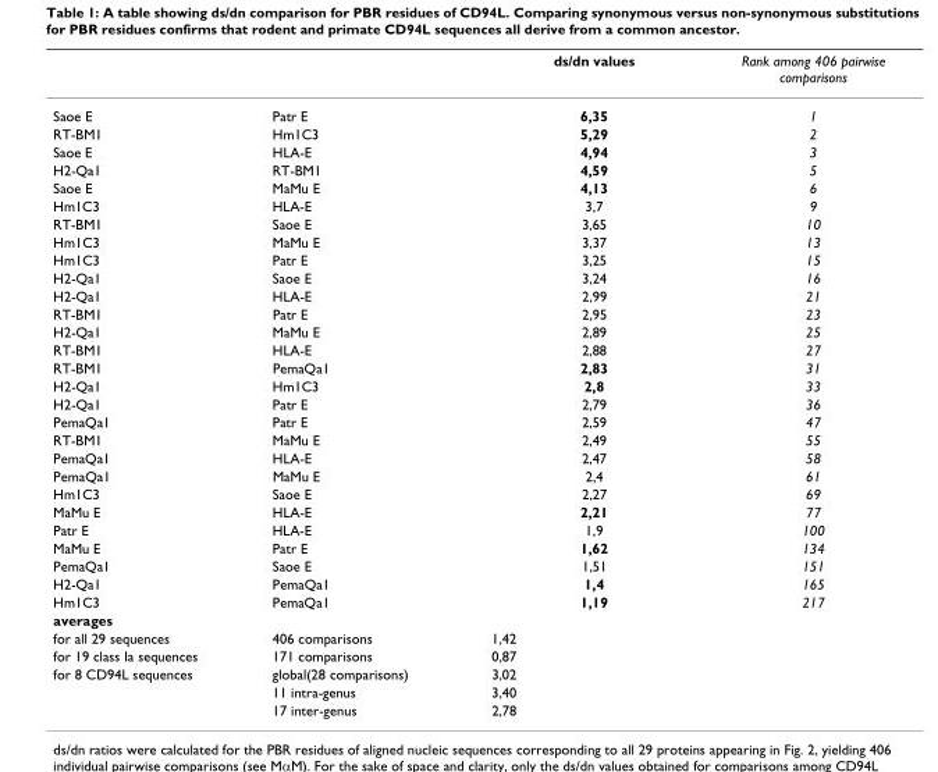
<table><thead><tr><td></td><td></td><td>ds/dn values</td><td>Rank among 406 pairwise comparisons</td></tr></thead><tbody><tr><td>Saoe E</td><td>Patr E</td><td>6,35</td><td>1</td></tr><tr><td>RT-BM1</td><td>Hm1C3</td><td>5,29</td><td>2</td></tr><tr><td>Saoe E</td><td>HLA-E</td><td>4,94</td><td>3</td></tr><tr><td>H2-Qa1</td><td>RT-BM1</td><td>4,59</td><td>5</td></tr><tr><td>Saoe E</td><td>MaMu E</td><td>4,13</td><td>6</td></tr><tr><td>Hm1C3</td><td>HLA-E</td><td>3,7</td><td>9</td></tr><tr><td>RT-BM1</td><td>Saoe E</td><td>3,65</td><td>10</td></tr><tr><td>Hm1C3</td><td>MaMu E</td><td>3,37</td><td>13</td></tr><tr><td>Hm1C3</td><td>Patr E</td><td>3,25</td><td>15</td></tr><tr><td>H2-Qa1</td><td>Saoe E</td><td>3,24</td><td>16</td></tr><tr><td>H2-Qa1</td><td>HLA-E</td><td>2,99</td><td>21</td></tr><tr><td>RT-BM1</td><td>Patr E</td><td>2,95</td><td>23</td></tr><tr><td>H2-Qa1</td><td>MaMu E</td><td>2,89</td><td>25</td></tr><tr><td>RT-BM1</td><td>HLA-E</td><td>2,88</td><td>27</td></tr><tr><td>RT-BM1</td><td>PemaQa1</td><td>2,83</td><td>31</td></tr><tr><td>H2-Qa1</td><td>Hm1C3</td><td>2,8</td><td>33</td></tr><tr><td>H2-Qa1</td><td>Patr E</td><td>2,79</td><td>36</td></tr><tr><td>PemaQa1</td><td>Patr E</td><td>2,59</td><td>47</td></tr><tr><td>RT-BM1</td><td>MaMu E</td><td>2,49</td><td>55</td></tr><tr><td>PemaQa1</td><td>HLA-E</td><td>2,47</td><td>58</td></tr><tr><td>PemaQa1</td><td>MaMu E</td><td>2,4</td><td>61</td></tr><tr><td>Hm1C3</td><td>Saoe E</td><td>2,27</td><td>69</td></tr><tr><td>MaMu E</td><td>HLA-E</td><td>2,21</td><td>77</td></tr><tr><td>Patr E</td><td>HLA-E</td><td>1,9</td><td>100</td></tr><tr><td>MaMu E</td><td>Patr E</td><td>1,62</td><td>134</td></tr><tr><td>PemaQa1</td><td>Saoe E</td><td>1,51</td><td>151</td></tr><tr><td>H2-Qa1</td><td>PemaQa1</td><td>1,4</td><td>165</td></tr><tr><td>Hm1C3</td><td>PemaQa1</td><td>1,19</td><td>217</td></tr><tr><td colspan="4">averages</td></tr><tr><td>for all 29 sequences</td><td>406 comparisons</td><td>1,42</td><td></td></tr><tr><td>for 19 class Ia sequences</td><td>171 comparisons</td><td>0,87</td><td></td></tr><tr><td rowspan="3">for 8 CD94L sequences</td><td>global(28 comparisons)</td><td>3,02</td><td></td></tr><tr><td>11 intra-genus</td><td>3,40</td><td></td></tr><tr><td>17 inter-genus</td><td>2,78</td><td></td></tr></tbody></table>